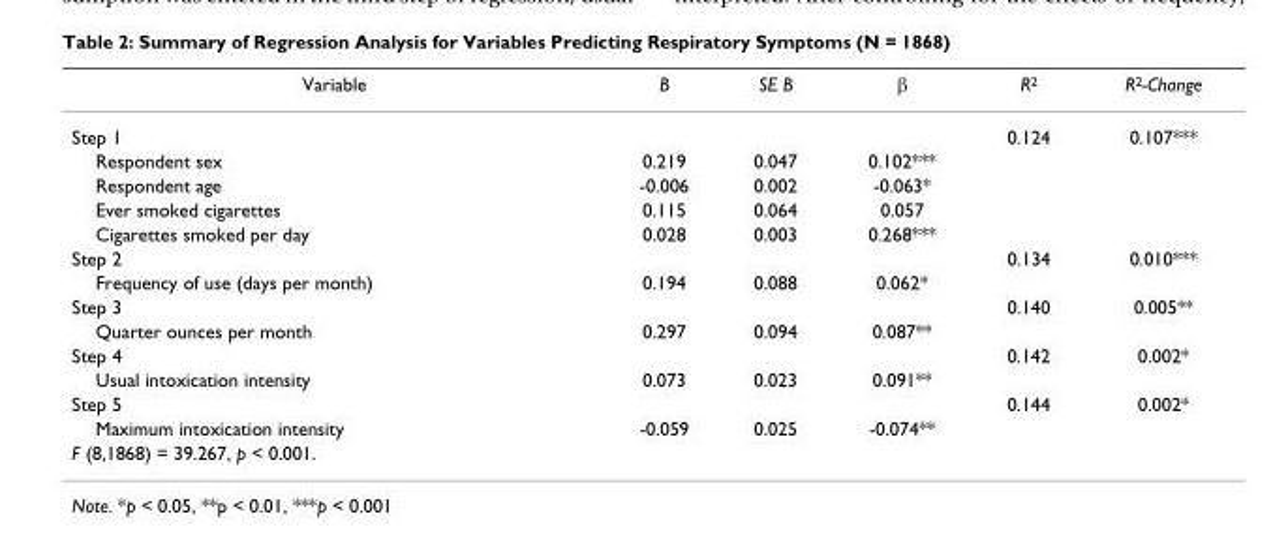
<table><thead><tr><td>Variable</td><td>B</td><td>SE B</td><td>β</td><td>R<sup>2</sup></td><td>R<sup>2</sup>-Change</td></tr></thead><tbody><tr><td>Step 1</td><td></td><td></td><td></td><td>0.124</td><td>0.107***</td></tr><tr><td>Respondent sex</td><td>0.219</td><td>0.047</td><td>0.102***</td><td></td><td></td></tr><tr><td>Respondent age</td><td>-0.006</td><td>0.002</td><td>-0.063*</td><td></td><td></td></tr><tr><td>Ever smoked cigarettes</td><td>0.115</td><td>0.064</td><td>0.057</td><td></td><td></td></tr><tr><td>Cigarettes smoked per day</td><td>0.028</td><td>0.003</td><td>0.268***</td><td></td><td></td></tr><tr><td>Step 2</td><td></td><td></td><td></td><td>0.134</td><td>0.010***</td></tr><tr><td>Frequency of use (days per month)</td><td>0.194</td><td>0.088</td><td>0.062*</td><td></td><td></td></tr><tr><td>Step 3</td><td></td><td></td><td></td><td>0.140</td><td>0.005**</td></tr><tr><td>Quarter ounces per month</td><td>0.297</td><td>0.094</td><td>0.087**</td><td></td><td></td></tr><tr><td>Step 4</td><td></td><td></td><td></td><td>0.142</td><td>0.002*</td></tr><tr><td>Usual intoxication intensity</td><td>0.073</td><td>0.023</td><td>0.091**</td><td></td><td></td></tr><tr><td>Step 5</td><td></td><td></td><td></td><td>0.144</td><td>0.002*</td></tr><tr><td>Maximum intoxication intensity</td><td>-0.059</td><td>0.025</td><td>-0.074**</td><td></td><td></td></tr><tr><td>F (8,1868) = 39.267, p &lt; 0.001.</td><td></td><td></td><td></td><td></td><td></td></tr></tbody></table>